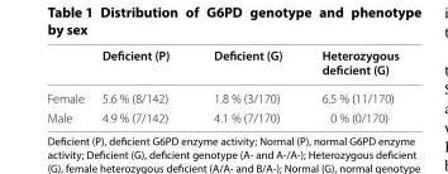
<table><thead><tr><td></td><td>Deficient (P)</td><td>Deficient (G)</td><td>Heterozygous deficient (G)</td></tr></thead><tbody><tr><td>Female</td><td>5.6 % (8/142)</td><td>1.8 % (3/170)</td><td>6.5 % (11/170)</td></tr><tr><td>Male</td><td>4.9 % (7/142)</td><td>4.1 % (7/170)</td><td>0 % (0/170)</td></tr></tbody></table>